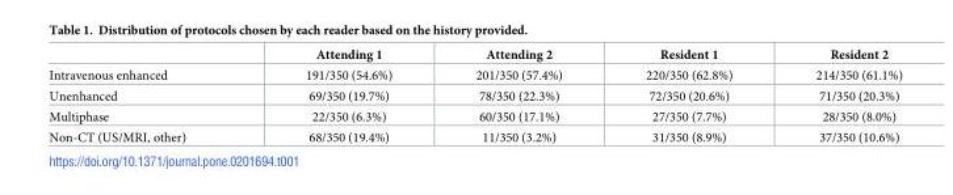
<table><thead><tr><td></td><td>Attending 1</td><td>Attending 2</td><td>Resident 1</td><td>Resident 2</td></tr></thead><tbody><tr><td>Intravenous enhanced</td><td>191/350 (54.6%)</td><td>201/350 (57.4%)</td><td>220/350 (62.8%)</td><td>214/350 (61.1%)</td></tr><tr><td>Unenhanced</td><td>69/350 (19.7%)</td><td>78/350 (22.3%)</td><td>72/350 (20.6%)</td><td>71/350 (20.3%)</td></tr><tr><td>Multiphase</td><td>22/350 (6.3%)</td><td>60/350 (17.1%)</td><td>27/350 (7.7%)</td><td>28/350 (8.0%)</td></tr><tr><td>Non-CT (US/MRI, other)</td><td>68/350 (19.4%)</td><td>11/350 (3.2%)</td><td>31/350 (8.9%)</td><td>37/350 (10.6%)</td></tr></tbody></table>